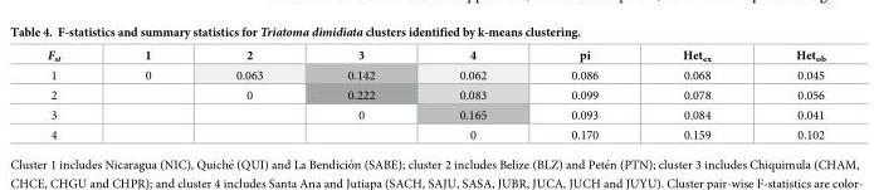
<table><thead><tr><td>F<sub>st</sub></td><td>1</td><td>2</td><td>3</td><td>4</td><td>pi</td><td>Het<sub>ex</sub></td><td>Het<sub>ob</sub></td></tr></thead><tbody><tr><td>1</td><td>0</td><td>0.063</td><td>0.142</td><td>0.062</td><td>0.086</td><td>0.068</td><td>0.045</td></tr><tr><td>2</td><td></td><td>0</td><td>0.222</td><td>0.083</td><td>0.099</td><td>0.078</td><td>0.056</td></tr><tr><td>3</td><td></td><td></td><td>0</td><td>0.165</td><td>0.093</td><td>0.084</td><td>0.041</td></tr><tr><td>4</td><td></td><td></td><td></td><td>0</td><td>0.170</td><td>0.159</td><td>0.102</td></tr></tbody></table>